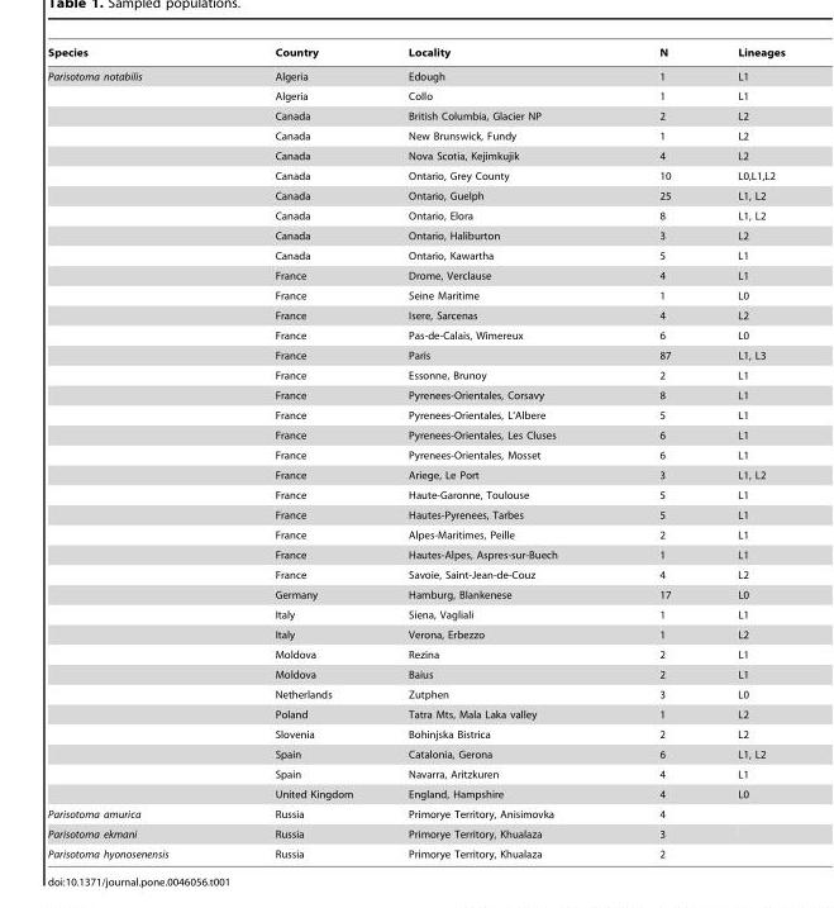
<table><thead><tr><td>Species</td><td>Country</td><td>Locality</td><td>N</td><td>Lineages</td></tr></thead><tbody><tr><td rowspan="37">Parisotoma notabilis</td><td>Algeria</td><td>Edough</td><td>1</td><td>L1</td></tr><tr><td>Algeria</td><td>Collo</td><td>1</td><td>L1</td></tr><tr><td>Canada</td><td>British Columbia, Glacier NP</td><td>2</td><td>L2</td></tr><tr><td>Canada</td><td>New Brunswick, Fundy</td><td>1</td><td>L2</td></tr><tr><td>Canada</td><td>Nova Scotia, Kejimkujik</td><td>4</td><td>L2</td></tr><tr><td>Canada</td><td>Ontario, Grey County</td><td>10</td><td>L0,L1,L2</td></tr><tr><td>Canada</td><td>Ontario, Guelph</td><td>25</td><td>L1, L2</td></tr><tr><td>Canada</td><td>Ontario, Elora</td><td>8</td><td>L1, L2</td></tr><tr><td>Canada</td><td>Ontario, Haliburton</td><td>3</td><td>L2</td></tr><tr><td>Canada</td><td>Ontario, Kawartha</td><td>5</td><td>L1</td></tr><tr><td>France</td><td>Drome, Verclause</td><td>4</td><td>L1</td></tr><tr><td>France</td><td>Seine Maritime</td><td>1</td><td>L0</td></tr><tr><td>France</td><td>Isere, Sarcenas</td><td>4</td><td>L2</td></tr><tr><td>France</td><td>Pas-de-Calais, Wimereux</td><td>6</td><td>L0</td></tr><tr><td>France</td><td>Paris</td><td>87</td><td>L1, L3</td></tr><tr><td>France</td><td>Essonne, Brunoy</td><td>2</td><td>L1</td></tr><tr><td>France</td><td>Pyrenees-Orientales, Corsavy</td><td>8</td><td>L1</td></tr><tr><td>France</td><td>Pyrenees-Orientales, L’Albere</td><td>5</td><td>L1</td></tr><tr><td>France</td><td>Pyrenees-Orientales, Les Cluses</td><td>6</td><td>L1</td></tr><tr><td>France</td><td>Pyrenees-Orientales, Mosset</td><td>6</td><td>L1</td></tr><tr><td>France</td><td>Ariege, Le Port</td><td>3</td><td>L1, L2</td></tr><tr><td>France</td><td>Haute-Garonne, Toulouse</td><td>5</td><td>L1</td></tr><tr><td>France</td><td>Hautes-Pyrenees, Tarbes</td><td>5</td><td>L1</td></tr><tr><td>France</td><td>Alpes-Maritimes, Peille</td><td>2</td><td>L1</td></tr><tr><td>France</td><td>Hautes-Alpes, Aspres-sur-Buech</td><td>1</td><td>L1</td></tr><tr><td>France</td><td>Savoie, Saint-Jean-de-Couz</td><td>4</td><td>L2</td></tr><tr><td>Germany</td><td>Hamburg, Blankenese</td><td>17</td><td>L0</td></tr><tr><td>Italy</td><td>Siena, Vagliali</td><td>1</td><td>L1</td></tr><tr><td>Italy</td><td>Verona, Erbezzo</td><td>1</td><td>L2</td></tr><tr><td>Moldova</td><td>Rezina</td><td>2</td><td>L1</td></tr><tr><td>Moldova</td><td>Baius</td><td>2</td><td>L1</td></tr><tr><td>Netherlands</td><td>Zutphen</td><td>3</td><td>L0</td></tr><tr><td>Poland</td><td>Tatra Mts, Mala Laka valley</td><td>1</td><td>L2</td></tr><tr><td>Slovenia</td><td>Bohinjska Bistrica</td><td>2</td><td>L2</td></tr><tr><td>Spain</td><td>Catalonia, Gerona</td><td>6</td><td>L1, L2</td></tr><tr><td>Spain</td><td>Navarra, Aritzkuren</td><td>4</td><td>L1</td></tr><tr><td>United Kingdom</td><td>England, Hampshire</td><td>4</td><td>L0</td></tr><tr><td>Parisotoma amurica</td><td>Russia</td><td>Primorye Territory, Anisimovka</td><td>4</td><td></td></tr><tr><td>Parisotoma ekmani</td><td>Russia</td><td>Primorye Territory, Khualaza</td><td>3</td><td></td></tr><tr><td>Parisotoma hyonosenensis</td><td>Russia</td><td>Primorye Territory, Khualaza</td><td>2</td><td></td></tr></tbody></table>